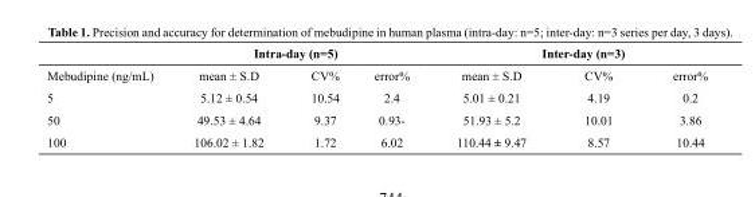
<table><thead><tr><td colspan="4">Intra-day (n=5)</td><td colspan="3">Inter-day (n=3)</td></tr><tr><td>Mebudipine (ng/mL)</td><td>mean ± S.D</td><td>CV%</td><td>error%</td><td>mean ± S.D</td><td>CV%</td><td>error%</td></tr></thead><tbody><tr><td>5</td><td>5.12 ± 0.54</td><td>10.54</td><td>2.4</td><td>5.01 ± 0.21</td><td>4.19</td><td>0.2</td></tr><tr><td>50</td><td>49.53 ± 4.64</td><td>9.37</td><td>0.93-</td><td>51.93 ± 5.2</td><td>10.01</td><td>3.86</td></tr><tr><td>100</td><td>106.02 ± 1.82</td><td>1.72</td><td>6.02</td><td>110.44 ± 9.47</td><td>8.57</td><td>10.44</td></tr></tbody></table>